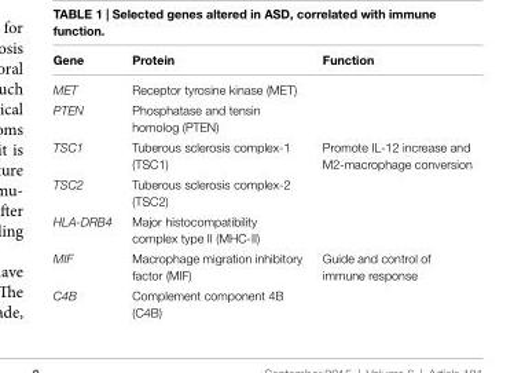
<table><thead><tr><td>Gene</td><td>protein</td><td>Function</td></tr></thead><tbody><tr><td>MET</td><td>Receptor tyrosine kinase (MET)</td><td></td></tr><tr><td>PTEN</td><td>Phosphatase and tensin homolog (PTEN)</td><td></td></tr><tr><td>TSC1</td><td>Tuberous sclerosis complex-1 (TSC1)</td><td>Promote IL-12 increase and M2-macrophage conversion</td></tr><tr><td>TSC2</td><td>Tuberous sclerosis complex-2 (TSC2)</td><td></td></tr><tr><td>HLA-DRB4</td><td>Major histocompatibility complex type II (MHC-II)</td><td></td></tr><tr><td>MIF</td><td>Macrophage migration inhibitory factor (MIF)</td><td>Guide and control of immune response</td></tr><tr><td>C4B</td><td>Complement component 4B (C4B)</td><td></td></tr></tbody></table>